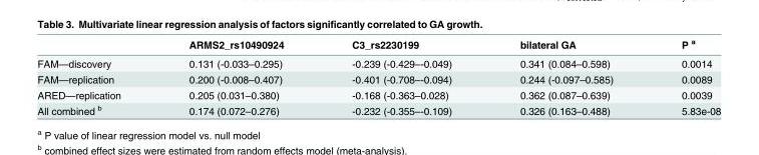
<table><thead><tr><td></td><td>ARMS2_rs10490924</td><td>C3_rs2230199</td><td>bilateral GA</td><td>P <sup>a</sup></td></tr></thead><tbody><tr><td>FAM—discovery</td><td>0.131 (-0.033–0.295)</td><td>-0.239 (-0.429–-0.049)</td><td>0.341 (0.084–0.598)</td><td>0.0014</td></tr><tr><td>FAM—replication</td><td>0.200 (-0.008–0.407)</td><td>-0.401 (-0.708–-0.094)</td><td>0.244 (-0.097–0.585)</td><td>0.0089</td></tr><tr><td>ARED—replication</td><td>0.205 (0.031–0.380)</td><td>-0.168 (-0.363–0.028)</td><td>0.362 (0.087–0.639)</td><td>0.0039</td></tr><tr><td>All combined <sup>b</sup></td><td>0.174 (0.072–0.276)</td><td>-0.232 (-0.355–-0.109)</td><td>0.326 (0.163–0.488)</td><td>5.83e-08</td></tr></tbody></table>